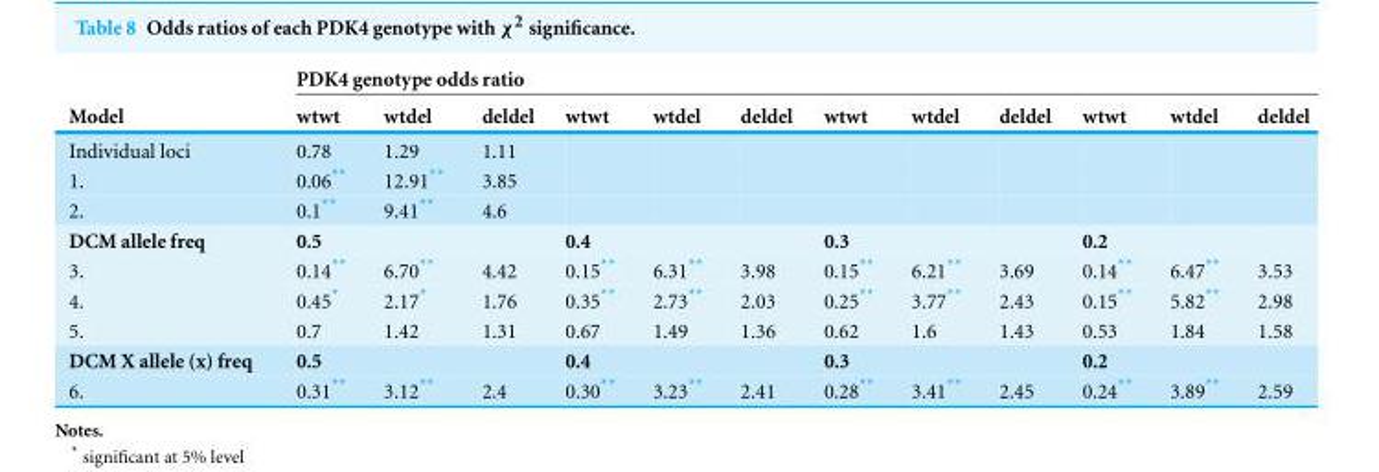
<table><thead><tr><td rowspan="2">Model</td><td colspan="12">PDK4 genotype odds ratio</td></tr><tr><td>wtwt</td><td>wtdel</td><td>deldel</td><td>wtwt</td><td>wtdel</td><td>deldel</td><td>wtwt</td><td>wtdel</td><td>deldel</td><td>wtwt</td><td>wtdel</td><td>deldel</td></tr></thead><tbody><tr><td>Individual loci</td><td>0.78</td><td>1.29</td><td>1.11</td><td></td><td></td><td></td><td></td><td></td><td></td><td></td><td></td><td></td></tr><tr><td>1.</td><td>0.06**</td><td>12.91**</td><td>3.85</td><td></td><td></td><td></td><td></td><td></td><td></td><td></td><td></td><td></td></tr><tr><td>2.</td><td>0.1**</td><td>9.41**</td><td>4.6</td><td></td><td></td><td></td><td></td><td></td><td></td><td></td><td></td><td></td></tr><tr><td>DCM allele freq</td><td colspan="3">0.5</td><td colspan="3">0.4</td><td colspan="3">0.3</td><td colspan="3">0.2</td></tr><tr><td>3.</td><td>0.14**</td><td>6.70**</td><td>4.42</td><td>0.15**</td><td>6.31**</td><td>3.98</td><td>0.15**</td><td>6.21**</td><td>3.69</td><td>0.14**</td><td>6.47**</td><td>3.53</td></tr><tr><td>4.</td><td>0.45*</td><td>2.17*</td><td>1.76</td><td>0.35**</td><td>2.73**</td><td>2.03</td><td>0.25**</td><td>3.77**</td><td>2.43</td><td>0.15**</td><td>5.82**</td><td>2.98</td></tr><tr><td>5.</td><td>0.7</td><td>1.42</td><td>1.31</td><td>0.67</td><td>1.49</td><td>1.36</td><td>0.62</td><td>1.6</td><td>1.43</td><td>0.53</td><td>1.84</td><td>1.58</td></tr><tr><td>DCM X allele (x) freq</td><td colspan="3">0.5</td><td colspan="3">0.4</td><td colspan="3">0.3</td><td colspan="3">0.2</td></tr><tr><td>6.</td><td>0.31**</td><td>3.12**</td><td>2.4</td><td>0.30**</td><td>3.23**</td><td>2.41</td><td>0.28**</td><td>3.41**</td><td>2.45</td><td>0.24**</td><td>3.89**</td><td>2.59</td></tr></tbody></table>